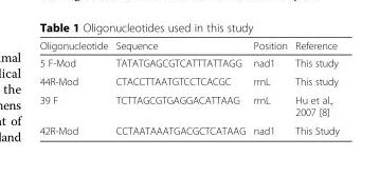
<table><thead><tr><td>Oligonucleotide</td><td>Sequence</td><td>Position</td><td>Reference</td></tr></thead><tbody><tr><td>5 F-Mod</td><td>TATATGAGCGTCATTTATTAGG</td><td>nad1</td><td>This study</td></tr><tr><td>44R-Mod</td><td>CTACCTTAATGTCCTCACGC</td><td>rrnL</td><td>This study</td></tr><tr><td>39 F</td><td>TCTTAGCGTGAGGACATTAAG</td><td>rrnL</td><td>Hu et al., 2007 [8]</td></tr><tr><td>42R-Mod</td><td>CCTAATAAATGACGCTCATAAG</td><td>nad1</td><td>This Study</td></tr></tbody></table>